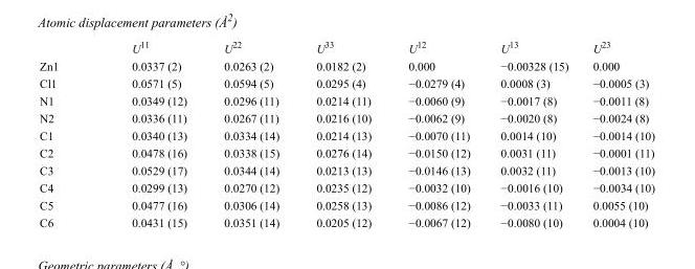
<table><thead><tr><td></td><td>U<sup>11</sup></td><td>U<sup>22</sup></td><td>U<sup>33</sup></td><td>U<sup>12</sup></td><td>U<sup>13</sup></td><td>U<sup>23</sup></td></tr></thead><tbody><tr><td>Zn1</td><td>0.0337 (2)</td><td>0.0263 (2)</td><td>0.0182 (2)</td><td>0.000</td><td>−0.00328 (15)</td><td>0.000</td></tr><tr><td>Cl1</td><td>0.0571 (5)</td><td>0.0594 (5)</td><td>0.0295 (4)</td><td>−0.0279 (4)</td><td>0.0008 (3)</td><td>−0.0005 (3)</td></tr><tr><td>N1</td><td>0.0349 (12)</td><td>0.0296 (11)</td><td>0.0214 (11)</td><td>−0.0060 (9)</td><td>−0.0017 (8)</td><td>−0.0011 (8)</td></tr><tr><td>N2</td><td>0.0336 (11)</td><td>0.0267 (11)</td><td>0.0216 (10)</td><td>−0.0062 (9)</td><td>−0.0020 (8)</td><td>−0.0024 (8)</td></tr><tr><td>C1</td><td>0.0340 (13)</td><td>0.0334 (14)</td><td>0.0214 (13)</td><td>−0.0070 (11)</td><td>0.0014 (10)</td><td>−0.0014 (10)</td></tr><tr><td>C2</td><td>0.0478 (16)</td><td>0.0338 (15)</td><td>0.0276 (14)</td><td>−0.0150 (12)</td><td>0.0031 (11)</td><td>−0.0001 (11)</td></tr><tr><td>C3</td><td>0.0529 (17)</td><td>0.0344 (14)</td><td>0.0213 (13)</td><td>−0.0146 (13)</td><td>0.0032 (11)</td><td>−0.0013 (10)</td></tr><tr><td>C4</td><td>0.0299 (13)</td><td>0.0270 (12)</td><td>0.0235 (12)</td><td>−0.0032 (10)</td><td>−0.0016 (10)</td><td>−0.0034 (10)</td></tr><tr><td>C5</td><td>0.0477 (16)</td><td>0.0306 (14)</td><td>0.0258 (13)</td><td>−0.0086 (12)</td><td>−0.0033 (11)</td><td>0.0055 (10)</td></tr><tr><td>C6</td><td>0.0431 (15)</td><td>0.0351 (14)</td><td>0.0205 (12)</td><td>−0.0067 (12)</td><td>−0.0080 (10)</td><td>0.0004 (10)</td></tr></tbody></table>